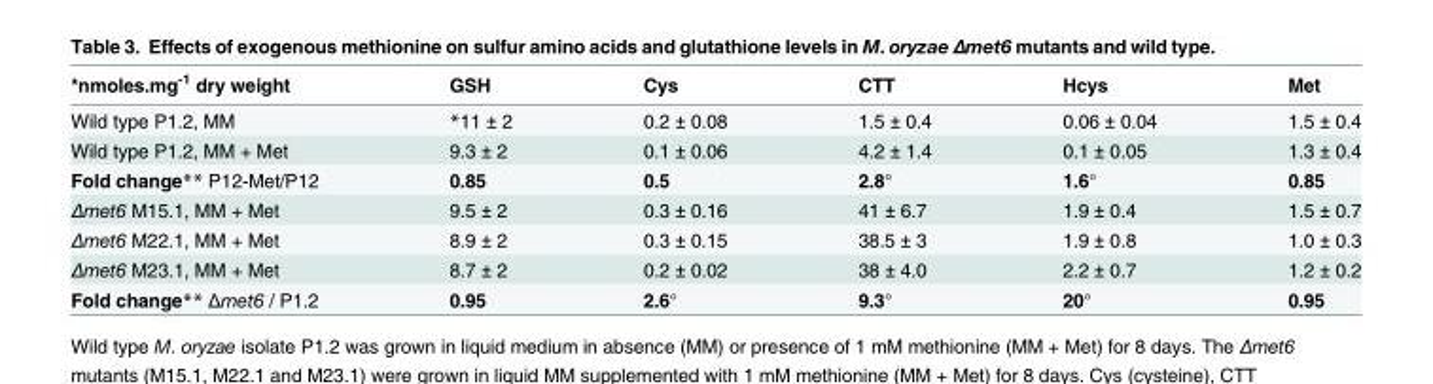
<table><thead><tr><td>*nmoles.mg<sup>-1</sup> dry weight</td><td>GSH</td><td>Cys</td><td>CTT</td><td>Hcys</td><td>Met</td></tr></thead><tbody><tr><td>Wild type P1.2, MM</td><td>*11 ± 2</td><td>0.2 ± 0.08</td><td>1.5 ± 0.4</td><td>0.06 ± 0.04</td><td>1.5 ± 0.4</td></tr><tr><td>Wild type P1.2, MM + Met</td><td>9.3 ± 2</td><td>0.1 ± 0.06</td><td>4.2 ± 1.4</td><td>0.1 ± 0.05</td><td>1.3 ± 0.4</td></tr><tr><td>Fold change** P12-Met/P12</td><td>0.85</td><td>0.5</td><td>2.8°</td><td>1.6°</td><td>0.85</td></tr><tr><td>Δmet6 M15.1, MM + Met</td><td>9.5 ± 2</td><td>0.3 ± 0.16</td><td>41 ± 6.7</td><td>1.9 ± 0.4</td><td>1.5 ± 0.7</td></tr><tr><td>Δmet6 M22.1, MM + Met</td><td>8.9 ± 2</td><td>0.3 ± 0.15</td><td>38.5 ± 3</td><td>1.9 ± 0.8</td><td>1.0 ± 0.3</td></tr><tr><td>Δmet6 M23.1, MM + Met</td><td>8.7 ± 2</td><td>0.2 ± 0.02</td><td>38 ± 4.0</td><td>2.2 ± 0.7</td><td>1.2 ± 0.2</td></tr><tr><td>Fold change** Δmet6 / P1.2</td><td>0.95</td><td>2.6°</td><td>9.3°</td><td>20°</td><td>0.95</td></tr></tbody></table>